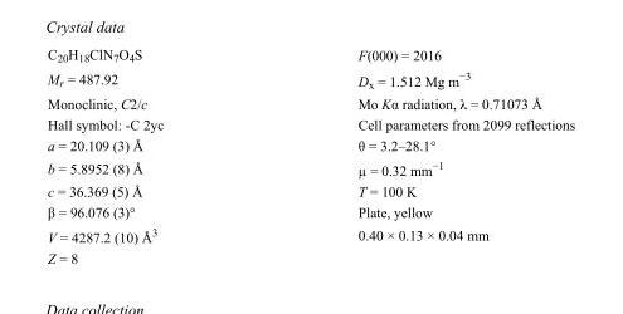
<table><tbody><tr><td>C<sub>20</sub>H<sub>18</sub>ClN<sub>7</sub>O<sub>4</sub>S</td><td>F(000) = 2016</td></tr><tr><td>M<sub>r</sub> = 487.92</td><td>D<sub>x</sub> = 1.512 Mg m<sup>−3</sup></td></tr><tr><td>Monoclinic, C2/c</td><td>Mo Kα radiation, λ = 0.71073 Å</td></tr><tr><td>Hall symbol: -C 2yc</td><td>Cell parameters from 2099 reflections</td></tr><tr><td>a = 20.109 (3) Å</td><td>θ = 3.2–28.1°</td></tr><tr><td>b = 5.8952 (8) Å</td><td>µ = 0.32 mm<sup>−1</sup></td></tr><tr><td>c = 36.369 (5) Å</td><td>T = 100 K</td></tr><tr><td>β = 96.076 (3)°</td><td>Plate, yellow</td></tr><tr><td>V = 4287.2 (10) Å<sup>3</sup></td><td>0.40 × 0.13 × 0.04 mm</td></tr><tr><td>Z = 8</td><td></td></tr></tbody></table>